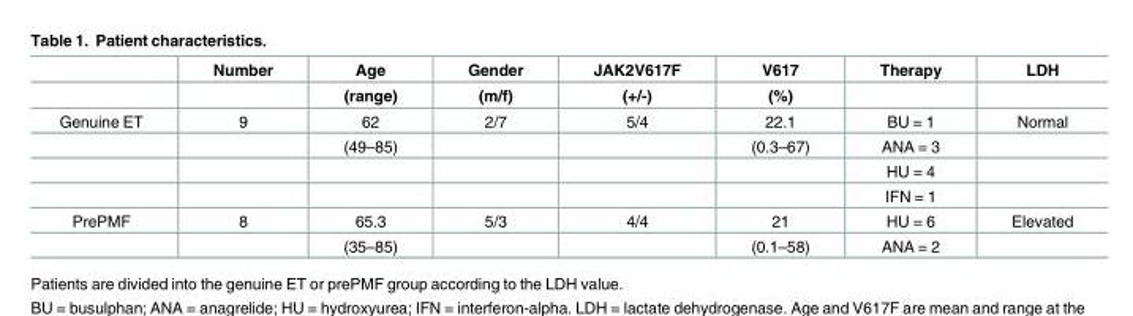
<table><thead><tr><td rowspan="2"></td><td rowspan="2">Number</td><td rowspan="2">Age (range)</td><td rowspan="2">Gender (m/f)</td><td rowspan="2">JAK2V617F (+/-)</td><td rowspan="2">V617 (%)</td><td rowspan="2">Therapy</td><td rowspan="2">LDH</td></tr><tr></tr></thead><tbody><tr><td rowspan="4">Genuine ET</td><td>9</td><td>62</td><td>2/7</td><td>5/4</td><td>22.1</td><td>BU = 1</td><td>Normal</td></tr><tr><td></td><td>(49–85)</td><td></td><td></td><td>(0.3–67)</td><td>ANA = 3</td><td></td></tr><tr><td></td><td></td><td></td><td></td><td></td><td>HU = 4</td><td></td></tr><tr><td></td><td></td><td></td><td></td><td></td><td>IFN = 1</td><td></td></tr><tr><td rowspan="2">PrePMF</td><td>8</td><td>65.3</td><td>5/3</td><td>4/4</td><td>21</td><td>HU = 6</td><td>Elevated</td></tr><tr><td></td><td>(35–85)</td><td></td><td></td><td>(0.1–58)</td><td>ANA = 2</td><td></td></tr></tbody></table>